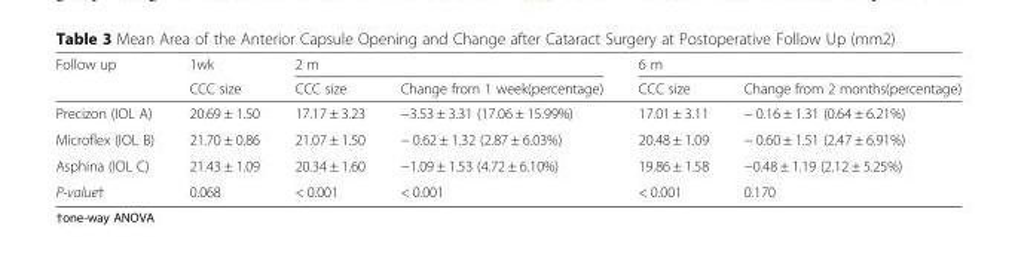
<table><thead><tr><td rowspan="2">Follow up</td><td rowspan="2">1wk CCC size</td><td colspan="2">2 m</td><td colspan="2">6 m</td></tr><tr><td>CCC size</td><td>Change from 1 week(percentage)</td><td>CCC size</td><td>Change from 2 months(percentage)</td></tr></thead><tbody><tr><td>Precizon (IOL A)</td><td>20.69 ± 1.50</td><td>17.17 ± 3.23</td><td>−3.53 ± 3.31 (17.06 ± 15.99%)</td><td>17.01 ± 3.11</td><td>− 0.16 ± 1.31 (0.64 ± 6.21%)</td></tr><tr><td>Microflex (IOL B)</td><td>21.70 ± 0.86</td><td>21.07 ± 1.50</td><td>− 0.62 ± 1.32 (2.87 ± 6.03%)</td><td>20.48 ± 1.09</td><td>− 0.60 ± 1.51 (2.47 ± 6.91%)</td></tr><tr><td>Asphina (IOL C)</td><td>21.43 ± 1.09</td><td>20.34 ± 1.60</td><td>−1.09 ± 1.53 (4.72 ± 6.10%)</td><td>19.86 ± 1.58</td><td>−0.48 ± 1.19 (2.12 ± 5.25%)</td></tr><tr><td>P-value†</td><td>0.068</td><td>&lt; 0.001</td><td>&lt; 0.001</td><td>&lt; 0.001</td><td>0.170</td></tr></tbody></table>